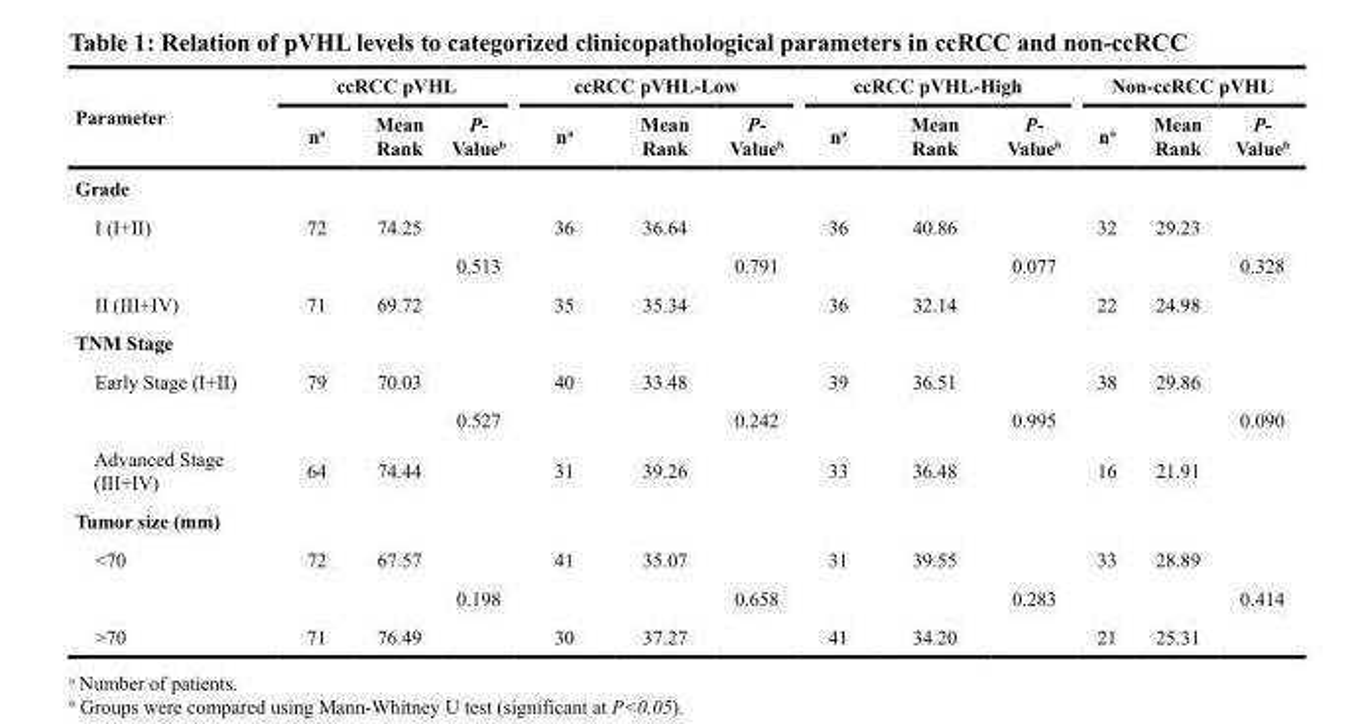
<table><thead><tr><td rowspan="2">Parameter</td><td colspan="3">ccRCC pVHL</td><td colspan="3">ccRCC pVHL-Low</td><td colspan="3">ccRCC pVHL-High</td><td colspan="3">Non-ccRCC pVHL</td></tr><tr><td>n<sup>a</sup></td><td>Mean Rank</td><td>P- Value<sup>b</sup></td><td>n<sup>a</sup></td><td>Mean Rank</td><td>P- Value<sup>b</sup></td><td>n<sup>a</sup></td><td>Mean Rank</td><td>P- Value<sup>b</sup></td><td>n<sup>a</sup></td><td>Mean Rank</td><td>P- Value<sup>b</sup></td></tr></thead><tbody><tr><td colspan="13">Grade</td></tr><tr><td rowspan="2">I (I+II)</td><td>72</td><td>74.25</td><td></td><td>36</td><td>36.64</td><td></td><td>36</td><td>40.86</td><td></td><td>32</td><td>29.23</td><td></td></tr><tr><td></td><td></td><td>0.513</td><td></td><td></td><td>0.791</td><td></td><td></td><td>0.077</td><td></td><td></td><td>0.328</td></tr><tr><td>II (III+IV)</td><td>71</td><td>69.72</td><td></td><td>35</td><td>35.34</td><td></td><td>36</td><td>32.14</td><td></td><td>22</td><td>24.98</td><td></td></tr><tr><td colspan="13">TNM Stage</td></tr><tr><td rowspan="2">Early Stage (I+II)</td><td>79</td><td>70.03</td><td></td><td>40</td><td>33.48</td><td></td><td>39</td><td>36.51</td><td></td><td>38</td><td>29.86</td><td></td></tr><tr><td></td><td></td><td>0.527</td><td></td><td></td><td>0.242</td><td></td><td></td><td>0.995</td><td></td><td></td><td>0.090</td></tr><tr><td>Advanced Stage (III+IV)</td><td>64</td><td>74.44</td><td></td><td>31</td><td>39.26</td><td></td><td>33</td><td>36.48</td><td></td><td>16</td><td>21.91</td><td></td></tr><tr><td colspan="13">Tumor size (mm)</td></tr><tr><td rowspan="2">&lt;70</td><td>72</td><td>67.57</td><td></td><td>41</td><td>35.07</td><td></td><td>31</td><td>39.55</td><td></td><td>33</td><td>28.89</td><td></td></tr><tr><td></td><td></td><td>0.198</td><td></td><td></td><td>0.658</td><td></td><td></td><td>0.283</td><td></td><td></td><td>0.414</td></tr><tr><td>&gt;70</td><td>71</td><td>76.49</td><td></td><td>30</td><td>37.27</td><td></td><td>41</td><td>34.20</td><td></td><td>21</td><td>25.31</td><td></td></tr></tbody></table>